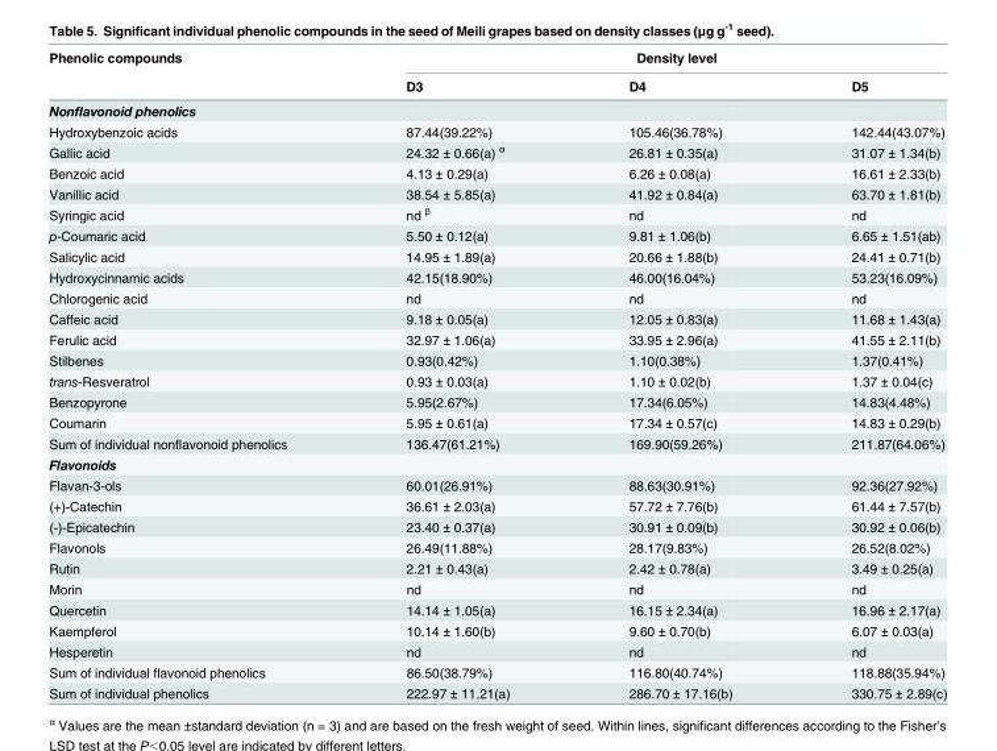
<table><thead><tr><td rowspan="2">Phenolic compounds</td><td colspan="3">Density level</td></tr><tr><td>D3</td><td>D4</td><td>D5</td></tr></thead><tbody><tr><td colspan="4">Nonflavonoid phenolics</td></tr><tr><td>Hydroxybenzoic acids</td><td>87.44(39.22%)</td><td>105.46(36.78%)</td><td>142.44(43.07%)</td></tr><tr><td>Gallic acid</td><td>24.32 ± 0.66(a) <sup>α</sup></td><td>26.81 ± 0.35(a)</td><td>31.07 ± 1.34(b)</td></tr><tr><td>Benzoic acid</td><td>4.13 ± 0.29(a)</td><td>6.26 ± 0.08(a)</td><td>16.61 ± 2.33(b)</td></tr><tr><td>Vanillic acid</td><td>38.54 ± 5.85(a)</td><td>41.92 ± 0.84(a)</td><td>63.70 ± 1.81(b)</td></tr><tr><td>Syringic acid</td><td>nd <sup>β</sup></td><td>nd</td><td>nd</td></tr><tr><td>p-Coumaric acid</td><td>5.50 ± 0.12(a)</td><td>9.81 ± 1.06(b)</td><td>6.65 ± 1.51(ab)</td></tr><tr><td>Salicylic acid</td><td>14.95 ± 1.89(a)</td><td>20.66 ± 1.88(b)</td><td>24.41 ± 0.71(b)</td></tr><tr><td>Hydroxycinnamic acids</td><td>42.15(18.90%)</td><td>46.00(16.04%)</td><td>53.23(16.09%)</td></tr><tr><td>Chlorogenic acid</td><td>nd</td><td>nd</td><td>nd</td></tr><tr><td>Caffeic acid</td><td>9.18 ± 0.05(a)</td><td>12.05 ± 0.83(a)</td><td>11.68 ± 1.43(a)</td></tr><tr><td>Ferulic acid</td><td>32.97 ± 1.06(a)</td><td>33.95 ± 2.96(a)</td><td>41.55 ± 2.11(b)</td></tr><tr><td>Stilbenes</td><td>0.93(0.42%)</td><td>1.10(0.38%)</td><td>1.37(0.41%)</td></tr><tr><td>trans-Resveratrol</td><td>0.93 ± 0.03(a)</td><td>1.10 ± 0.02(b)</td><td>1.37 ± 0.04(c)</td></tr><tr><td>Benzopyrone</td><td>5.95(2.67%)</td><td>17.34(6.05%)</td><td>14.83(4.48%)</td></tr><tr><td>Coumarin</td><td>5.95 ± 0.61(a)</td><td>17.34 ± 0.57(c)</td><td>14.83 ± 0.29(b)</td></tr><tr><td>Sum of individual nonflavonoid phenolics</td><td>136.47(61.21%)</td><td>169.90(59.26%)</td><td>211.87(64.06%)</td></tr><tr><td colspan="4">Flavonoids</td></tr><tr><td>Flavan-3-ols</td><td>60.01(26.91%)</td><td>88.63(30.91%)</td><td>92.36(27.92%)</td></tr><tr><td>(+)-Catechin</td><td>36.61 ± 2.03(a)</td><td>57.72 ± 7.76(b)</td><td>61.44 ± 7.57(b)</td></tr><tr><td>(-)-Epicatechin</td><td>23.40 ± 0.37(a)</td><td>30.91 ± 0.09(b)</td><td>30.92 ± 0.06(b)</td></tr><tr><td>Flavonols</td><td>26.49(11.88%)</td><td>28.17(9.83%)</td><td>26.52(8.02%)</td></tr><tr><td>Rutin</td><td>2.21 ± 0.43(a)</td><td>2.42 ± 0.78(a)</td><td>3.49 ± 0.25(a)</td></tr><tr><td>Morin</td><td>nd</td><td>nd</td><td>nd</td></tr><tr><td>Quercetin</td><td>14.14 ± 1.05(a)</td><td>16.15 ± 2.34(a)</td><td>16.96 ± 2.17(a)</td></tr><tr><td>Kaempferol</td><td>10.14 ± 1.60(b)</td><td>9.60 ± 0.70(b)</td><td>6.07 ± 0.03(a)</td></tr><tr><td>Hesperetin</td><td>nd</td><td>nd</td><td>nd</td></tr><tr><td>Sum of individual flavonoid phenolics</td><td>86.50(38.79%)</td><td>116.80(40.74%)</td><td>118.88(35.94%)</td></tr><tr><td>Sum of individual phenolics</td><td>222.97 ± 11.21(a)</td><td>286.70 ± 17.16(b)</td><td>330.75 ± 2.89(c)</td></tr></tbody></table>